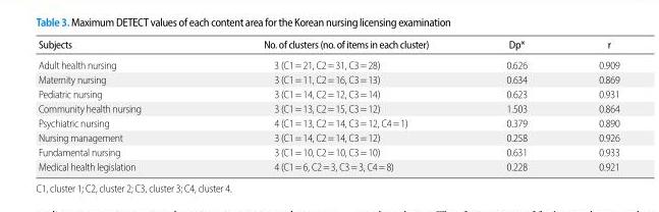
<table><thead><tr><td>Subjects</td><td>No. of clusters (no. of items in each cluster)</td><td>Dp*</td><td>r</td></tr></thead><tbody><tr><td>Adult health nursing</td><td>3 (C1=21, C2=31, C3=28)</td><td>0.626</td><td>0.909</td></tr><tr><td>Maternity nursing</td><td>3 (C1=11, C2=16, C3=13)</td><td>0.634</td><td>0.869</td></tr><tr><td>Pediatric nursing</td><td>3 (C1=14, C2=12, C3=14)</td><td>0.623</td><td>0.931</td></tr><tr><td>Community health nursing</td><td>3 (C1=13, C2=15, C3=12)</td><td>1.503</td><td>0.864</td></tr><tr><td>Psychiatric nursing</td><td>4 (C1=13, C2=14, C3=12, C4=1)</td><td>0.379</td><td>0.890</td></tr><tr><td>Nursing management</td><td>3 (C1=14, C2=14, C3=12)</td><td>0.258</td><td>0.926</td></tr><tr><td>Fundamental nursing</td><td>3 (C1=10, C2=10, C3=10)</td><td>0.631</td><td>0.933</td></tr><tr><td>Medical health legislation</td><td>4 (C1=6, C2=3, C3=3, C4=8)</td><td>0.228</td><td>0.921</td></tr></tbody></table>